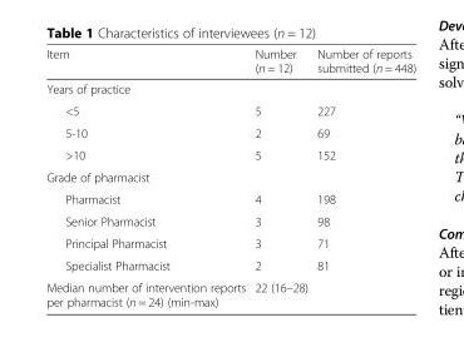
<table><thead><tr><td>Item</td><td>Number (n = 12)</td><td>Number of reports submitted (n = 448)</td></tr></thead><tbody><tr><td colspan="3">Years of practice</td></tr><tr><td>&lt;5</td><td>5</td><td>227</td></tr><tr><td>5-10</td><td>2</td><td>69</td></tr><tr><td>&gt;10</td><td>5</td><td>152</td></tr><tr><td colspan="3">Grade of pharmacist</td></tr><tr><td>Pharmacist</td><td>4</td><td>198</td></tr><tr><td>Senior Pharmacist</td><td>3</td><td>98</td></tr><tr><td>Principal Pharmacist</td><td>3</td><td>71</td></tr><tr><td>Specialist Pharmacist</td><td>2</td><td>81</td></tr><tr><td>Median number of intervention reports per pharmacist (n = 24) (min-max)</td><td colspan="2">22 (16–28)</td></tr></tbody></table>